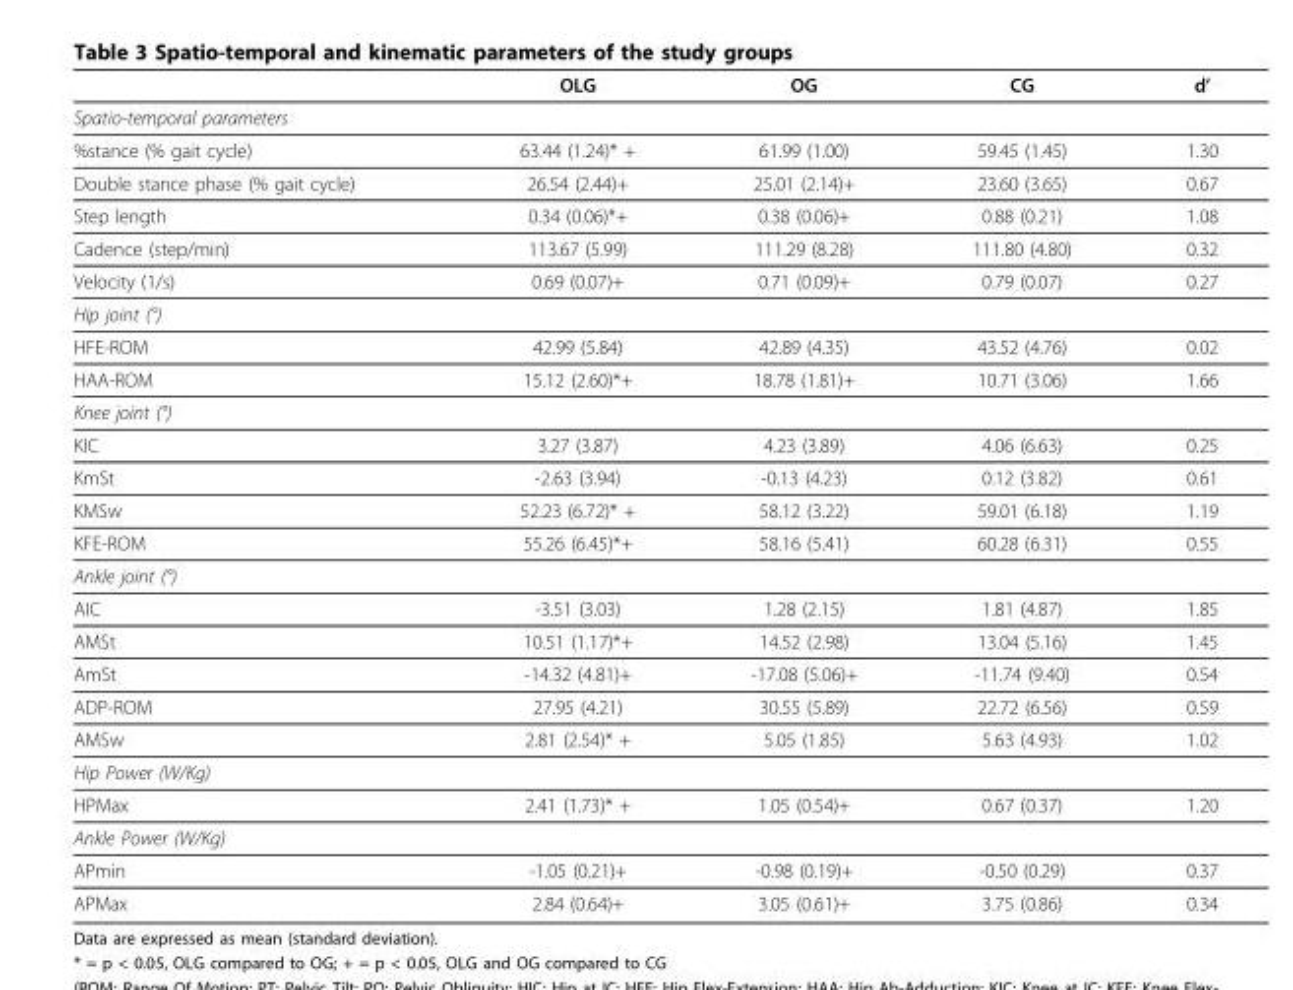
<table><thead><tr><td></td><td>OLG</td><td>OG</td><td>CG</td><td>d’</td></tr></thead><tbody><tr><td colspan="5">Spatio-temporal parameters</td></tr><tr><td>%stance (% gait cycle)</td><td>63.44 (1.24)* +</td><td>61.99 (1.00)</td><td>59.45 (1.45)</td><td>1.30</td></tr><tr><td>Double stance phase (% gait cycle)</td><td>26.54 (2.44)+</td><td>25.01 (2.14)+</td><td>23.60 (3.65)</td><td>0.67</td></tr><tr><td>Step length</td><td>0.34 (0.06)*+</td><td>0.38 (0.06)+</td><td>0.88 (0.21)</td><td>1.08</td></tr><tr><td>Cadence (step/min)</td><td>113.67 (5.99)</td><td>111.29 (8.28)</td><td>111.80 (4.80)</td><td>0.32</td></tr><tr><td>Velocity (1/s)</td><td>0.69 (0.07)+</td><td>0.71 (0.09)+</td><td>0.79 (0.07)</td><td>0.27</td></tr><tr><td colspan="5">Hip joint (°)</td></tr><tr><td>HFE-ROM</td><td>42.99 (5.84)</td><td>42.89 (4.35)</td><td>43.52 (4.76)</td><td>0.02</td></tr><tr><td>HAA-ROM</td><td>15.12 (2.60)*+</td><td>18.78 (1.81)+</td><td>10.71 (3.06)</td><td>1.66</td></tr><tr><td colspan="5">Knee joint (°)</td></tr><tr><td>KIC</td><td>3.27 (3.87)</td><td>4.23 (3.89)</td><td>4.06 (6.63)</td><td>0.25</td></tr><tr><td>KmSt</td><td>-2.63 (3.94)</td><td>-0.13 (4.23)</td><td>0.12 (3.82)</td><td>0.61</td></tr><tr><td>KMSw</td><td>52.23 (6.72)* +</td><td>58.12 (3.22)</td><td>59.01 (6.18)</td><td>1.19</td></tr><tr><td>KFE-ROM</td><td>55.26 (6.45)*+</td><td>58.16 (5.41)</td><td>60.28 (6.31)</td><td>0.55</td></tr><tr><td colspan="5">Ankle joint (°)</td></tr><tr><td>AIC</td><td>-3.51 (3.03)</td><td>1.28 (2.15)</td><td>1.81 (4.87)</td><td>1.85</td></tr><tr><td>AMSt</td><td>10.51 (1.17)*+</td><td>14.52 (2.98)</td><td>13.04 (5.16)</td><td>1.45</td></tr><tr><td>AmSt</td><td>-14.32 (4.81)+</td><td>-17.08 (5.06)+</td><td>-11.74 (9.40)</td><td>0.54</td></tr><tr><td>ADP-ROM</td><td>27.95 (4.21)</td><td>30.55 (5.89)</td><td>22.72 (6.56)</td><td>0.59</td></tr><tr><td>AMSw</td><td>2.81 (2.54)* +</td><td>5.05 (1.85)</td><td>5.63 (4.93)</td><td>1.02</td></tr><tr><td colspan="5">Hip Power (W/Kg)</td></tr><tr><td>HPMax</td><td>2.41 (1.73)* +</td><td>1.05 (0.54)+</td><td>0.67 (0.37)</td><td>1.20</td></tr><tr><td colspan="5">Ankle Power (W/Kg)</td></tr><tr><td>APmin</td><td>-1.05 (0.21)+</td><td>-0.98 (0.19)+</td><td>-0.50 (0.29)</td><td>0.37</td></tr><tr><td>APMax</td><td>2.84 (0.64)+</td><td>3.05 (0.61)+</td><td>3.75 (0.86)</td><td>0.34</td></tr></tbody></table>